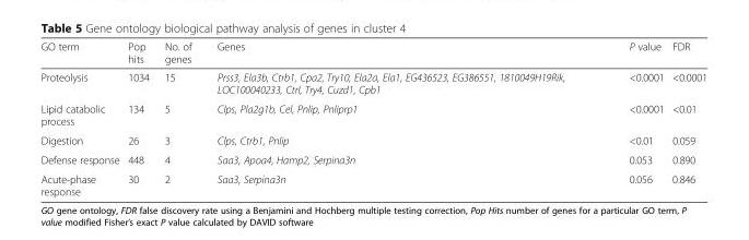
<table><thead><tr><td>GO term</td><td>Pop hits</td><td>No. of genes</td><td>Genes</td><td>P value</td><td>FDR</td></tr></thead><tbody><tr><td>Proteolysis</td><td>1034</td><td>15</td><td>Prss3, Ela3b, Ctrb1, Cpa2, Try10, Ela2a, Ela1, EG436523, EG386551, 1810049H19Rik, LOC100040233, Ctrl, Try4, Cuzd1, Cpb1</td><td>&lt;0.0001</td><td>&lt;0.0001</td></tr><tr><td>Lipid catabolic process</td><td>134</td><td>5</td><td>Clps, Pla2g1b, Cel, Pnlip, Pnliprp1</td><td>&lt;0.0001</td><td>&lt;0.01</td></tr><tr><td>Digestion</td><td>26</td><td>3</td><td>Clps, Ctrb1, Pnlip</td><td>&lt;0.01</td><td>0.059</td></tr><tr><td>Defense response</td><td>448</td><td>4</td><td>Saa3, Apoa4, Hamp2, Serpina3n</td><td>0.053</td><td>0.890</td></tr><tr><td>Acute-phase response</td><td>30</td><td>2</td><td>Saa3, Serpina3n</td><td>0.056</td><td>0.846</td></tr></tbody></table>